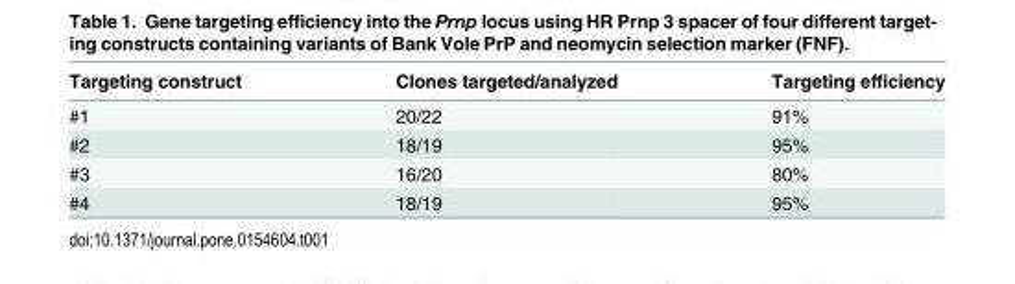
<table><thead><tr><td>Targeting construct</td><td>Clones targeted/analyzed</td><td>Targeting efficiency</td></tr></thead><tbody><tr><td>#1</td><td>20/22</td><td>91%</td></tr><tr><td>#2</td><td>18/19</td><td>95%</td></tr><tr><td>#3</td><td>16/20</td><td>80%</td></tr><tr><td>#4</td><td>18/19</td><td>95%</td></tr></tbody></table>